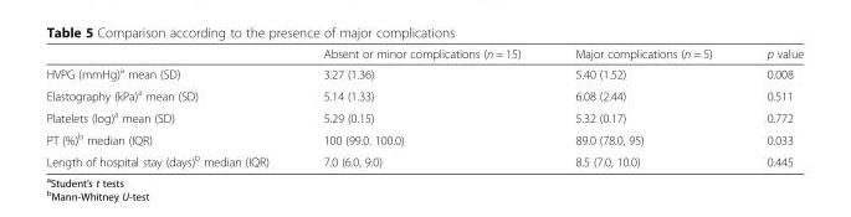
<table><thead><tr><td></td><td>Absent or minor complications (n = 15)</td><td>Major complications (n = 5)</td><td>p value</td></tr></thead><tbody><tr><td>HVPG (mmHg)<sup>a</sup> mean (SD)</td><td>3.27 (1.36)</td><td>5.40 (1.52)</td><td>0.008</td></tr><tr><td>Elastography (kPa)<sup>a</sup> mean (SD)</td><td>5.14 (1.33)</td><td>6.08 (2.44)</td><td>0.511</td></tr><tr><td>Platelets (log)<sup>a</sup> mean (SD)</td><td>5.29 (0.15)</td><td>5.32 (0.17)</td><td>0.772</td></tr><tr><td>PT (%)<sup>b</sup> median (IQR)</td><td>100 (99.0. 100.0)</td><td>89.0 (78.0, 95)</td><td>0.033</td></tr><tr><td>Length of hospital stay (days)<sup>b</sup> median (IQR)</td><td>7.0 (6.0, 9.0)</td><td>8.5 (7.0, 10.0)</td><td>0.445</td></tr></tbody></table>